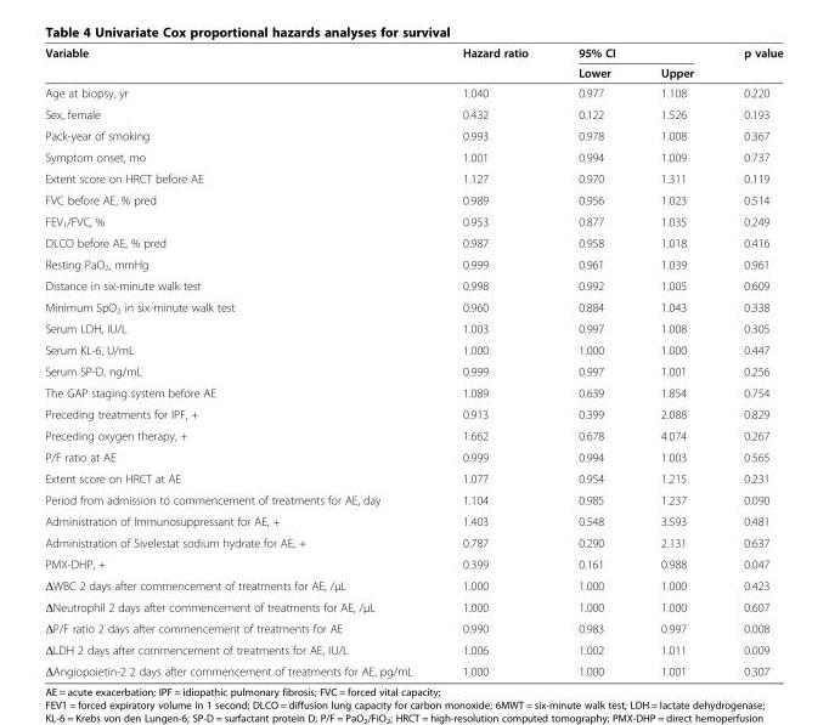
<table><thead><tr><td rowspan="2">Variable</td><td rowspan="2">Hazard ratio</td><td colspan="2">95% CI</td><td rowspan="2">p value</td></tr><tr><td>Lower</td><td>Upper</td></tr></thead><tbody><tr><td>Age at biopsy, yr</td><td>1.040</td><td>0.977</td><td>1.108</td><td>0.220</td></tr><tr><td>Sex, female</td><td>0.432</td><td>0.122</td><td>1.526</td><td>0.193</td></tr><tr><td>Pack-year of smoking</td><td>0.993</td><td>0.978</td><td>1.008</td><td>0.367</td></tr><tr><td>Symptom onset, mo</td><td>1.001</td><td>0.994</td><td>1.009</td><td>0.737</td></tr><tr><td>Extent score on HRCT before AE</td><td>1.127</td><td>0.970</td><td>1.311</td><td>0.119</td></tr><tr><td>FVC before AE, % pred</td><td>0.989</td><td>0.956</td><td>1.023</td><td>0.514</td></tr><tr><td>FEV<sub>1</sub>/FVC, %</td><td>0.953</td><td>0.877</td><td>1.035</td><td>0.249</td></tr><tr><td>DLCO before AE, % pred</td><td>0.987</td><td>0.958</td><td>1.018</td><td>0.416</td></tr><tr><td>Resting PaO<sub>2</sub>, mmHg</td><td>0.999</td><td>0.961</td><td>1.039</td><td>0.961</td></tr><tr><td>Distance in six-minute walk test</td><td>0.998</td><td>0.992</td><td>1.005</td><td>0.609</td></tr><tr><td>Minimum SpO<sub>2</sub> in six-minute walk test</td><td>0.960</td><td>0.884</td><td>1.043</td><td>0.338</td></tr><tr><td>Serum LDH, IU/L</td><td>1.003</td><td>0.997</td><td>1.008</td><td>0.305</td></tr><tr><td>Serum KL-6, U/mL</td><td>1.000</td><td>1.000</td><td>1.000</td><td>0.447</td></tr><tr><td>Serum SP-D, ng/mL</td><td>0.999</td><td>0.997</td><td>1.001</td><td>0.256</td></tr><tr><td>The GAP staging system before AE</td><td>1.089</td><td>0.639</td><td>1.854</td><td>0.754</td></tr><tr><td>Preceding treatments for IPF, +</td><td>0.913</td><td>0.399</td><td>2.088</td><td>0.829</td></tr><tr><td>Preceding oxygen therapy, +</td><td>1.662</td><td>0.678</td><td>4.074</td><td>0.267</td></tr><tr><td>P/F ratio at AE</td><td>0.999</td><td>0.994</td><td>1.003</td><td>0.565</td></tr><tr><td>Extent score on HRCT at AE</td><td>1.077</td><td>0.954</td><td>1.215</td><td>0.231</td></tr><tr><td>Period from admission to commencement of treatments for AE, day</td><td>1.104</td><td>0.985</td><td>1.237</td><td>0.090</td></tr><tr><td>Administration of Immunosuppressant for AE, +</td><td>1.403</td><td>0.548</td><td>3.593</td><td>0.481</td></tr><tr><td>Administration of Sivelestat sodium hydrate for AE, +</td><td>0.787</td><td>0.290</td><td>2.131</td><td>0.637</td></tr><tr><td>PMX-DHP, +</td><td>0.399</td><td>0.161</td><td>0.988</td><td>0.047</td></tr><tr><td>ΔWBC 2 days after commencement of treatments for AE, /μL</td><td>1.000</td><td>1.000</td><td>1.000</td><td>0.423</td></tr><tr><td>ΔNeutrophil 2 days after commencement of treatments for AE, /μL</td><td>1.000</td><td>1.000</td><td>1.000</td><td>0.607</td></tr><tr><td>ΔP/F ratio 2 days after commencement of treatments for AE</td><td>0.990</td><td>0.983</td><td>0.997</td><td>0.008</td></tr><tr><td>ΔLDH 2 days after commencement of treatments for AE, IU/L</td><td>1.006</td><td>1.002</td><td>1.011</td><td>0.009</td></tr><tr><td>ΔAngiopoietin-2 2 days after commencement of treatments for AE, pg/mL</td><td>1.000</td><td>1.000</td><td>1.001</td><td>0.307</td></tr></tbody></table>